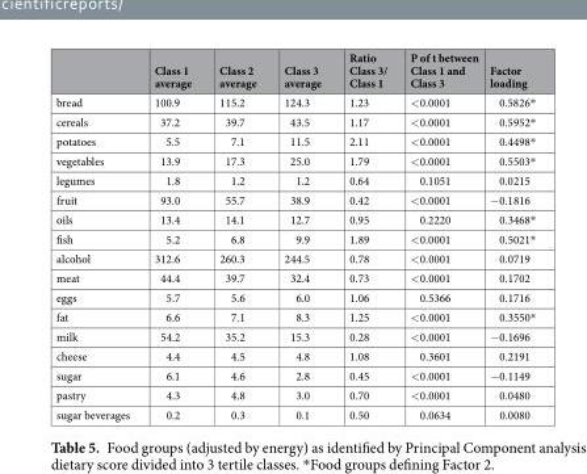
<table><thead><tr><td></td><td>Class 1 average</td><td>Class 2 average</td><td>Class 3 average</td><td>Ratio Class 3/ Class 1</td><td>P of t between Class 1 and Class 3</td><td>Factor loading</td></tr></thead><tbody><tr><td>bread</td><td>100.9</td><td>115.2</td><td>124.3</td><td>1.23</td><td>&lt;0.0001</td><td>0.5826*</td></tr><tr><td>cereals</td><td>37.2</td><td>39.7</td><td>43.5</td><td>1.17</td><td>&lt;0.0001</td><td>0.5952*</td></tr><tr><td>potatoes</td><td>5.5</td><td>7.1</td><td>11.5</td><td>2.11</td><td>&lt;0.0001</td><td>0.4498*</td></tr><tr><td>vegetables</td><td>13.9</td><td>17.3</td><td>25.0</td><td>1.79</td><td>&lt;0.0001</td><td>0.5503*</td></tr><tr><td>legumes</td><td>1.8</td><td>1.2</td><td>1.2</td><td>0.64</td><td>0.1051</td><td>0.0215</td></tr><tr><td>fruit</td><td>93.0</td><td>55.7</td><td>38.9</td><td>0.42</td><td>&lt;0.0001</td><td>−0.1816</td></tr><tr><td>oils</td><td>13.4</td><td>14.1</td><td>12.7</td><td>0.95</td><td>0.2220</td><td>0.3468*</td></tr><tr><td>fish</td><td>5.2</td><td>6.8</td><td>9.9</td><td>1.89</td><td>&lt;0.0001</td><td>0.5021*</td></tr><tr><td>alcohol</td><td>312.6</td><td>260.3</td><td>244.5</td><td>0.78</td><td>&lt;0.0001</td><td>0.0719</td></tr><tr><td>meat</td><td>44.4</td><td>39.7</td><td>32.4</td><td>0.73</td><td>&lt;0.0001</td><td>0.1702</td></tr><tr><td>eggs</td><td>5.7</td><td>5.6</td><td>6.0</td><td>1.06</td><td>0.5366</td><td>0.1716</td></tr><tr><td>fat</td><td>6.6</td><td>7.1</td><td>8.3</td><td>1.25</td><td>&lt;0.0001</td><td>0.3550*</td></tr><tr><td>milk</td><td>54.2</td><td>35.2</td><td>15.3</td><td>0.28</td><td>&lt;0.0001</td><td>−0.1696</td></tr><tr><td>cheese</td><td>4.4</td><td>4.5</td><td>4.8</td><td>1.08</td><td>0.3601</td><td>0.2191</td></tr><tr><td>sugar</td><td>6.1</td><td>4.6</td><td>2.8</td><td>0.45</td><td>&lt;0.0001</td><td>−0.1149</td></tr><tr><td>pastry</td><td>4.3</td><td>4.8</td><td>3.0</td><td>0.70</td><td>&lt;0.0001</td><td>0.0480</td></tr><tr><td>sugar beverages</td><td>0.2</td><td>0.3</td><td>0.1</td><td>0.50</td><td>0.0634</td><td>0.0080</td></tr></tbody></table>